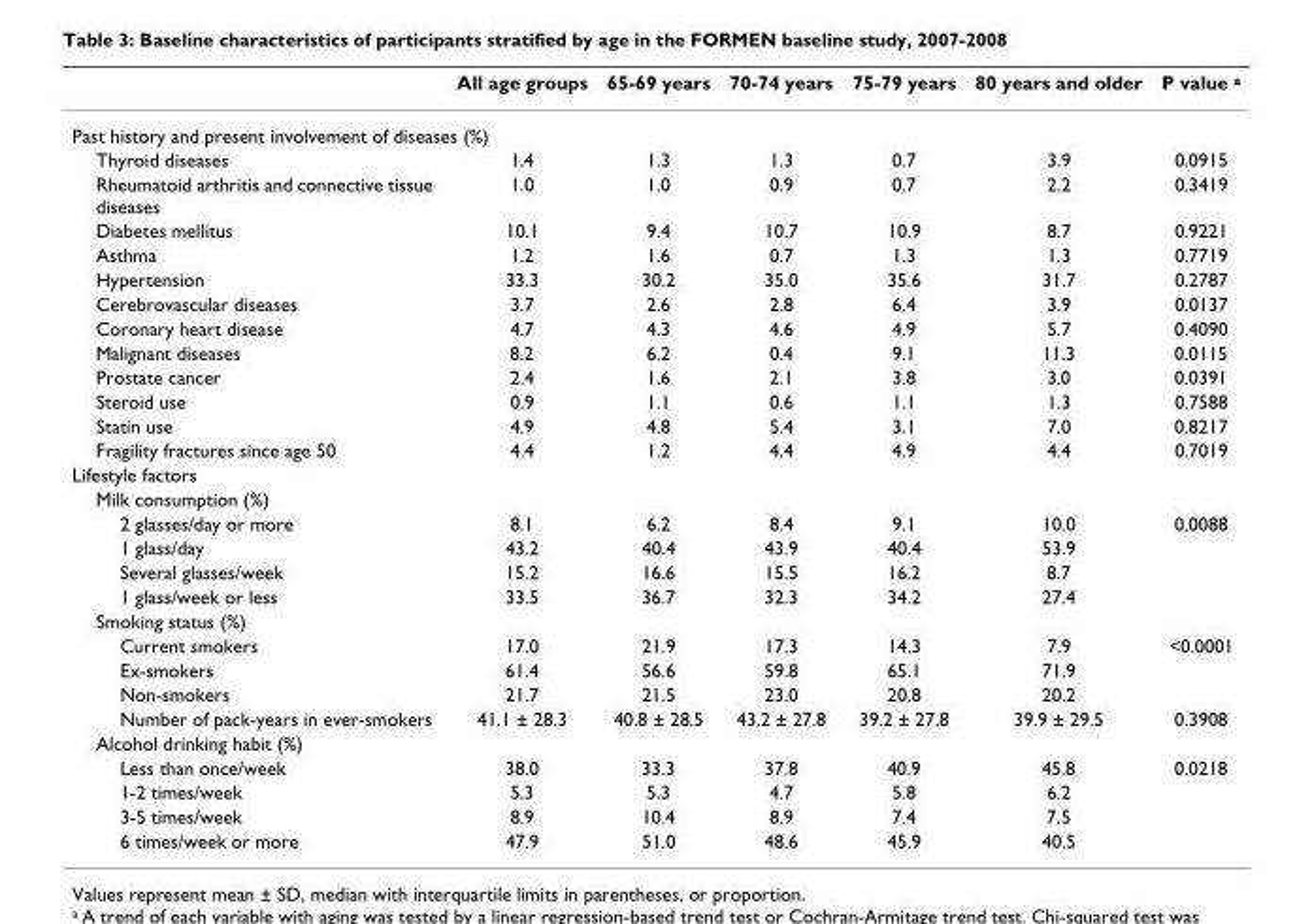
<table><thead><tr><td></td><td>All age groups</td><td>65-69 years</td><td>70-74 years</td><td>75-79 years</td><td>80 years and older</td><td>P value <sup>a</sup></td></tr></thead><tbody><tr><td colspan="7">Past history and present involvement of diseases (%)</td></tr><tr><td>Thyroid diseases</td><td>1.4</td><td>1.3</td><td>1.3</td><td>0.7</td><td>3.9</td><td>0.0915</td></tr><tr><td>Rheumatoid arthritis and connective tissue diseases</td><td>1.0</td><td>1.0</td><td>0.9</td><td>0.7</td><td>2.2</td><td>0.3419</td></tr><tr><td>Diabetes mellitus</td><td>10.1</td><td>9.4</td><td>10.7</td><td>10.9</td><td>8.7</td><td>0.9221</td></tr><tr><td>Asthma</td><td>1.2</td><td>1.6</td><td>0.7</td><td>1.3</td><td>1.3</td><td>0.7719</td></tr><tr><td>Hypertension</td><td>33.3</td><td>30.2</td><td>35.0</td><td>35.6</td><td>31.7</td><td>0.2787</td></tr><tr><td>Cerebrovascular diseases</td><td>3.7</td><td>2.6</td><td>2.8</td><td>6.4</td><td>3.9</td><td>0.0137</td></tr><tr><td>Coronary heart disease</td><td>4.7</td><td>4.3</td><td>4.6</td><td>4.9</td><td>5.7</td><td>0.4090</td></tr><tr><td>Malignant diseases</td><td>8.2</td><td>6.2</td><td>0.4</td><td>9.1</td><td>11.3</td><td>0.0115</td></tr><tr><td>Prostate cancer</td><td>2.4</td><td>1.6</td><td>2.1</td><td>3.8</td><td>3.0</td><td>0.0391</td></tr><tr><td>Steroid use</td><td>0.9</td><td>1.1</td><td>0.6</td><td>1.1</td><td>1.3</td><td>0.7588</td></tr><tr><td>Statin use</td><td>4.9</td><td>4.8</td><td>5.4</td><td>3.1</td><td>7.0</td><td>0.8217</td></tr><tr><td>Fragility fractures since age 50</td><td>4.4</td><td>1.2</td><td>4.4</td><td>4.9</td><td>4.4</td><td>0.7019</td></tr><tr><td colspan="7">Lifestyle factors</td></tr><tr><td colspan="7">Milk consumption (%)</td></tr><tr><td>2 glasses/day or more</td><td>8.1</td><td>6.2</td><td>8.4</td><td>9.1</td><td>10.0</td><td>0.0088</td></tr><tr><td>1 glass/day</td><td>43.2</td><td>40.4</td><td>43.9</td><td>40.4</td><td>53.9</td><td></td></tr><tr><td>Several glasses/week</td><td>15.2</td><td>16.6</td><td>15.5</td><td>16.2</td><td>8.7</td><td></td></tr><tr><td>1 glass/week or less</td><td>33.5</td><td>36.7</td><td>32.3</td><td>34.2</td><td>27.4</td><td></td></tr><tr><td colspan="7">Smoking status (%)</td></tr><tr><td>Current smokers</td><td>17.0</td><td>21.9</td><td>17.3</td><td>14.3</td><td>7.9</td><td>&lt;0.0001</td></tr><tr><td>Ex-smokers</td><td>61.4</td><td>56.6</td><td>59.8</td><td>65.1</td><td>71.9</td><td></td></tr><tr><td>Non-smokers</td><td>21.7</td><td>21.5</td><td>23.0</td><td>20.8</td><td>20.2</td><td></td></tr><tr><td>Number of pack-years in ever-smokers</td><td>41.1 ± 28.3</td><td>40.8 ± 28.5</td><td>43.2 ± 27.8</td><td>39.2 ± 27.8</td><td>39.9 ± 29.5</td><td>0.3908</td></tr><tr><td colspan="7">Alcohol drinking habit (%)</td></tr><tr><td>Less than once/week</td><td>38.0</td><td>33.3</td><td>37.8</td><td>40.9</td><td>45.8</td><td>0.0218</td></tr><tr><td>1-2 times/week</td><td>5.3</td><td>5.3</td><td>4.7</td><td>5.8</td><td>6.2</td><td></td></tr><tr><td>3-5 times/week</td><td>8.9</td><td>10.4</td><td>8.9</td><td>7.4</td><td>7.5</td><td></td></tr><tr><td>6 times/week or more</td><td>47.9</td><td>51.0</td><td>48.6</td><td>45.9</td><td>40.5</td><td></td></tr></tbody></table>